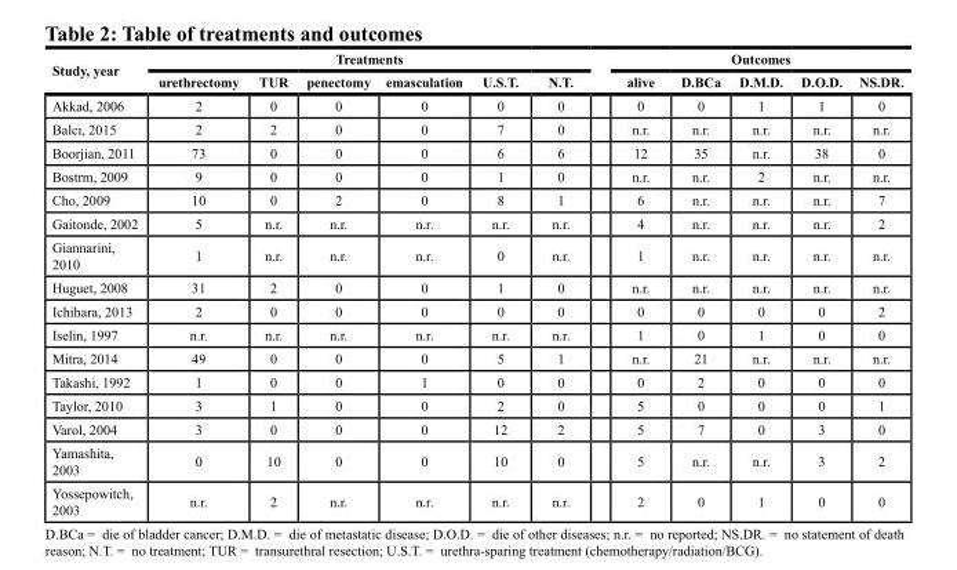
<table><thead><tr><td rowspan="2">Study, year</td><td colspan="6">Treatments</td><td colspan="5">Outcomes</td></tr><tr><td>urethrectomy</td><td>TUR</td><td>penectomy</td><td>emasculation</td><td>U.S.T.</td><td>N.T.</td><td>alive</td><td>D.BCa</td><td>D.M.D.</td><td>D.O.D.</td><td>NS.DR.</td></tr></thead><tbody><tr><td>Akkad, 2006</td><td>2</td><td>0</td><td>0</td><td>0</td><td>0</td><td>0</td><td>0</td><td>0</td><td>1</td><td>1</td><td>0</td></tr><tr><td>Balcı, 2015</td><td>2</td><td>2</td><td>0</td><td>0</td><td>7</td><td>0</td><td>n.r.</td><td>n.r.</td><td>n.r.</td><td>n.r.</td><td>n.r.</td></tr><tr><td>Boorjian, 2011</td><td>73</td><td>0</td><td>0</td><td>0</td><td>6</td><td>6</td><td>12</td><td>35</td><td>n.r.</td><td>38</td><td>0</td></tr><tr><td>Bostrm, 2009</td><td>9</td><td>0</td><td>0</td><td>0</td><td>1</td><td>0</td><td>n.r.</td><td>n.r.</td><td>2</td><td>n.r.</td><td>n.r.</td></tr><tr><td>Cho, 2009</td><td>10</td><td>0</td><td>2</td><td>0</td><td>8</td><td>1</td><td>6</td><td>n.r.</td><td>n.r.</td><td>n.r.</td><td>7</td></tr><tr><td>Gaitonde, 2002</td><td>5</td><td>n.r.</td><td>n.r.</td><td>n.r.</td><td>n.r.</td><td>n.r.</td><td>4</td><td>n.r.</td><td>n.r.</td><td>n.r.</td><td>2</td></tr><tr><td>Giannarini, 2010</td><td>1</td><td>n.r.</td><td>n.r.</td><td>n.r.</td><td>0</td><td>n.r.</td><td>1</td><td>n.r.</td><td>n.r.</td><td>n.r.</td><td>n.r.</td></tr><tr><td>Huguet, 2008</td><td>31</td><td>2</td><td>0</td><td>0</td><td>1</td><td>0</td><td>n.r.</td><td>n.r.</td><td>n.r.</td><td>n.r.</td><td>n.r.</td></tr><tr><td>Ichihara, 2013</td><td>2</td><td>0</td><td>0</td><td>0</td><td>0</td><td>0</td><td>0</td><td>0</td><td>0</td><td>0</td><td>2</td></tr><tr><td>Iselin, 1997</td><td>n.r.</td><td>n.r.</td><td>n.r.</td><td>n.r.</td><td>n.r.</td><td>n.r.</td><td>1</td><td>0</td><td>1</td><td>0</td><td>0</td></tr><tr><td>Mitra, 2014</td><td>49</td><td>0</td><td>0</td><td>0</td><td>5</td><td>1</td><td>n.r.</td><td>21</td><td>n.r.</td><td>n.r.</td><td>n.r.</td></tr><tr><td>Takashi, 1992</td><td>1</td><td>0</td><td>0</td><td>1</td><td>0</td><td>0</td><td>0</td><td>2</td><td>0</td><td>0</td><td>0</td></tr><tr><td>Taylor, 2010</td><td>3</td><td>1</td><td>0</td><td>0</td><td>2</td><td>0</td><td>5</td><td>0</td><td>0</td><td>0</td><td>1</td></tr><tr><td>Varol, 2004</td><td>3</td><td>0</td><td>0</td><td>0</td><td>12</td><td>2</td><td>5</td><td>7</td><td>0</td><td>3</td><td>0</td></tr><tr><td>Yamashita, 2003</td><td>0</td><td>10</td><td>0</td><td>0</td><td>10</td><td>0</td><td>5</td><td>n.r.</td><td>n.r.</td><td>3</td><td>2</td></tr><tr><td>Yossepowitch, 2003</td><td>n.r.</td><td>2</td><td>n.r.</td><td>n.r.</td><td>n.r.</td><td>n.r.</td><td>2</td><td>0</td><td>1</td><td>0</td><td>0</td></tr></tbody></table>